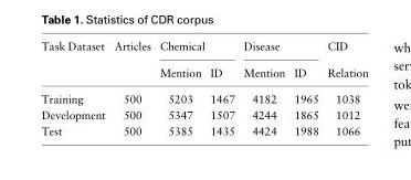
<table><thead><tr><td rowspan="2">Task Dataset</td><td rowspan="2">Articles</td><td colspan="2">Chemical</td><td colspan="2">Disease</td><td rowspan="2">CID Relation</td></tr><tr><td>Mention</td><td>ID</td><td>Mention</td><td>ID</td></tr></thead><tbody><tr><td>Training</td><td>500</td><td>5203</td><td>1467</td><td>4182</td><td>1965</td><td>1038</td></tr><tr><td>Development</td><td>500</td><td>5347</td><td>1507</td><td>4244</td><td>1865</td><td>1012</td></tr><tr><td>Test</td><td>500</td><td>5385</td><td>1435</td><td>4424</td><td>1988</td><td>1066</td></tr></tbody></table>